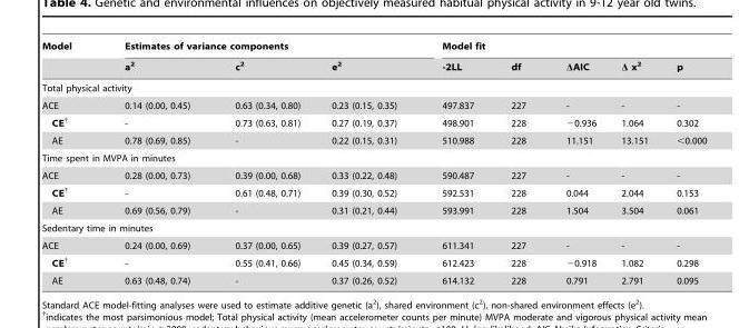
<table><thead><tr><td rowspan="2">Model</td><td colspan="3">Estimates of variance components</td><td colspan="5">Model fit</td></tr><tr><td>a<sup>2</sup></td><td>c<sup>2</sup></td><td>e<sup>2</sup></td><td>-2LL</td><td>df</td><td>ΔAIC</td><td>Δ x<sup>2</sup></td><td>p</td></tr></thead><tbody><tr><td colspan="9">Total physical activity</td></tr><tr><td>ACE</td><td>0.14 (0.00, 0.45)</td><td>0.63 (0.34, 0.80)</td><td>0.23 (0.15, 0.35)</td><td>497.837</td><td>227</td><td>-</td><td>-</td><td>-</td></tr><tr><td>CE†</td><td>-</td><td>0.73 (0.63, 0.81)</td><td>0.27 (0.19, 0.37)</td><td>498.901</td><td>228</td><td>−0.936</td><td>1.064</td><td>0.302</td></tr><tr><td>AE</td><td>0.78 (0.69, 0.85)</td><td>-</td><td>0.22 (0.15, 0.31)</td><td>510.988</td><td>228</td><td>11.151</td><td>13.151</td><td>&lt;0.000</td></tr><tr><td colspan="9">Time spent in MVPA in minutes</td></tr><tr><td>ACE</td><td>0.28 (0.00, 0.73)</td><td>0.39 (0.00, 0.68)</td><td>0.33 (0.22, 0.48)</td><td>590.487</td><td>227</td><td>-</td><td>-</td><td>-</td></tr><tr><td>CE†</td><td>-</td><td>0.61 (0.48, 0.71)</td><td>0.39 (0.30, 0.52)</td><td>592.531</td><td>228</td><td>0.044</td><td>2.044</td><td>0.153</td></tr><tr><td>AE</td><td>0.69 (0.56, 0.79)</td><td>-</td><td>0.31 (0.21, 0.44)</td><td>593.991</td><td>228</td><td>1.504</td><td>3.504</td><td>0.061</td></tr><tr><td colspan="9">Sedentary time in minutes</td></tr><tr><td>ACE</td><td>0.24 (0.00, 0.69)</td><td>0.37 (0.00, 0.65)</td><td>0.39 (0.27, 0.57)</td><td>611.341</td><td>227</td><td>-</td><td>-</td><td>-</td></tr><tr><td>CE†</td><td>-</td><td>0.55 (0.41, 0.66)</td><td>0.45 (0.34, 0.59)</td><td>612.423</td><td>228</td><td>−0.918</td><td>1.082</td><td>0.298</td></tr><tr><td>AE</td><td>0.63 (0.48, 0.74)</td><td>-</td><td>0.37 (0.26, 0.52)</td><td>614.132</td><td>228</td><td>0.791</td><td>2.791</td><td>0.095</td></tr></tbody></table>